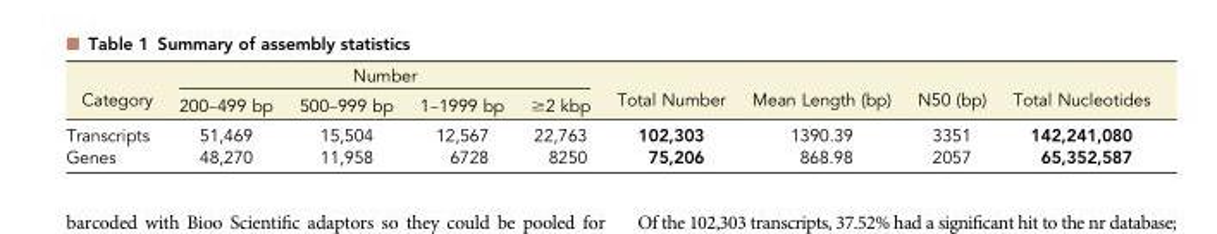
<table><thead><tr><td rowspan="2">Category</td><td colspan="4">Number</td><td rowspan="2">Total Number</td><td rowspan="2">Mean Length (bp)</td><td rowspan="2">N50 (bp)</td><td rowspan="2">Total Nucleotides</td></tr><tr><td>200–499 bp</td><td>500–999 bp</td><td>1–1999 bp</td><td>≥2 kbp</td></tr></thead><tbody><tr><td>Transcripts</td><td>51,469</td><td>15,504</td><td>12,567</td><td>22,763</td><td>102,303</td><td>1390.39</td><td>3351</td><td>142,241,080</td></tr><tr><td>Genes</td><td>48,270</td><td>11,958</td><td>6728</td><td>8250</td><td>75,206</td><td>868.98</td><td>2057</td><td>65,352,587</td></tr></tbody></table>